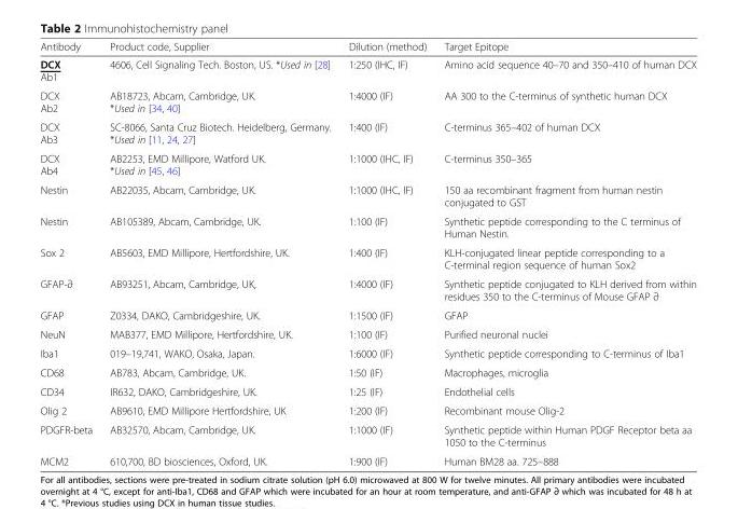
<table><thead><tr><td>Antibody</td><td>Product code, Supplier</td><td>Dilution (method)</td><td>Target Epitope</td></tr></thead><tbody><tr><td>DCX Ab1</td><td>4606, Cell Signaling Tech. Boston, US. *Used in [28]</td><td>1:250 (IHC, IF)</td><td>Amino acid sequence 40–70 and 350–410 of human DCX</td></tr><tr><td>DCX Ab2</td><td>AB18723, Abcam, Cambridge, UK. *Used in [34, 40]</td><td>1:4000 (IF)</td><td>AA 300 to the C-terminus of synthetic human DCX</td></tr><tr><td>DCX Ab3</td><td>SC-8066, Santa Cruz Biotech. Heidelberg, Germany. *Used in [11, 24, 27]</td><td>1:400 (IF)</td><td>C-terminus 365–402 of human DCX</td></tr><tr><td>DCX Ab4</td><td>AB2253, EMD Millipore, Watford UK. *Used in [45, 46]</td><td>1:1000 (IHC, IF)</td><td>C-terminus 350–365</td></tr><tr><td>Nestin</td><td>AB22035, Abcam, Cambridge, UK.</td><td>1:1000 (IHC, IF)</td><td>150 aa recombinant fragment from human nestin conjugated to GST</td></tr><tr><td>Nestin</td><td>AB105389, Abcam, Cambridge, UK.</td><td>1:100 (IF)</td><td>Synthetic peptide corresponding to the C terminus of Human Nestin.</td></tr><tr><td>Sox 2</td><td>AB5603, EMD Millipore, Hertfordshire, UK.</td><td>1:400 (IF)</td><td>KLH-conjugated linear peptide corresponding to a C-terminal region sequence of human Sox2</td></tr><tr><td>GFAP-∂</td><td>AB93251, Abcam, Cambridge, UK,</td><td>1:4000 (IF)</td><td>Synthetic peptide conjugated to KLH derived from within residues 350 to the C-terminus of Mouse GFAP ∂</td></tr><tr><td>GFAP</td><td>Z0334, DAKO, Cambridgeshire, UK.</td><td>1:1500 (IF)</td><td>GFAP</td></tr><tr><td>NeuN</td><td>MAB377, EMD Millipore, Hertfordshire, UK.</td><td>1:100 (IF)</td><td>Purified neuronal nuclei</td></tr><tr><td>Iba1</td><td>019–19,741, WAKO, Osaka, Japan.</td><td>1:6000 (IF)</td><td>Synthetic peptide corresponding to C-terminus of Iba1</td></tr><tr><td>CD68</td><td>AB783, Abcam, Cambridge, UK.</td><td>1:50 (IF)</td><td>Macrophages, microglia</td></tr><tr><td>CD34</td><td>IR632, DAKO, Cambridgeshire, UK.</td><td>1:25 (IF)</td><td>Endothelial cells</td></tr><tr><td>Olig 2</td><td>AB9610, EMD Millipore Hertfordshire, UK</td><td>1:200 (IF)</td><td>Recombinant mouse Olig-2</td></tr><tr><td>PDGFR-beta</td><td>AB32570, Abcam, Cambridge, UK.</td><td>1:1000 (IF)</td><td>Synthetic peptide within Human PDGF Receptor beta aa 1050 to the C-terminus</td></tr><tr><td>MCM2</td><td>610,700, BD biosciences, Oxford, UK.</td><td>1:900 (IF)</td><td>Human BM28 aa. 725–888</td></tr></tbody></table>